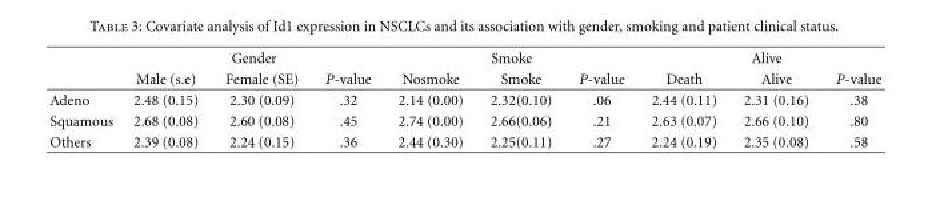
<table><thead><tr><td rowspan="2"></td><td colspan="3">Gender</td><td colspan="3">Smoke</td><td colspan="3">Alive</td></tr><tr><td>Male (s.e)</td><td>Female (SE)</td><td>P-value</td><td>Nosmoke</td><td>Smoke</td><td>P-value</td><td>Death</td><td>Alive</td><td>P-value</td></tr></thead><tbody><tr><td>Adeno</td><td>2.48 (0.15)</td><td>2.30 (0.09)</td><td>.32</td><td>2.14 (0.00)</td><td>2.32(0.10)</td><td>.06</td><td>2.44 (0.11)</td><td>2.31 (0.16)</td><td>.38</td></tr><tr><td>Squamous</td><td>2.68 (0.08)</td><td>2.60 (0.08)</td><td>.45</td><td>2.74 (0.00)</td><td>2.66(0.06)</td><td>.21</td><td>2.63 (0.07)</td><td>2.66 (0.10)</td><td>.80</td></tr><tr><td>Others</td><td>2.39 (0.08)</td><td>2.24 (0.15)</td><td>.36</td><td>2.44 (0.30)</td><td>2.25(0.11)</td><td>.27</td><td>2.24 (0.19)</td><td>2.35 (0.08)</td><td>.58</td></tr></tbody></table>